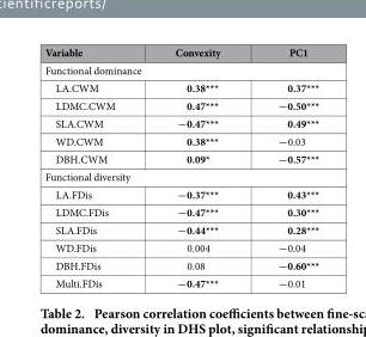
<table><thead><tr><td>Variable</td><td>Convexity</td><td>PC1</td></tr></thead><tbody><tr><td colspan="3">Functional dominance</td></tr><tr><td>LA.CWM</td><td>0.38***</td><td>0.37***</td></tr><tr><td>LDMC.CWM</td><td>0.47***</td><td>−0.50***</td></tr><tr><td>SLA.CWM</td><td>−0.47***</td><td>0.49***</td></tr><tr><td>WD.CWM</td><td>0.38***</td><td>−0.03</td></tr><tr><td>DBH.CWM</td><td>0.09*</td><td>−0.57***</td></tr><tr><td colspan="3">Functional diversity</td></tr><tr><td>LA.FDis</td><td>−0.37***</td><td>0.43***</td></tr><tr><td>LDMC.FDis</td><td>−0.47***</td><td>0.30***</td></tr><tr><td>SLA.FDis</td><td>−0.44***</td><td>0.28***</td></tr><tr><td>WD.FDis</td><td>0.004</td><td>−0.04</td></tr><tr><td>DBH.FDis</td><td>0.08</td><td>−0.60***</td></tr><tr><td>Multi.FDis</td><td>−0.47***</td><td>−0.01</td></tr></tbody></table>